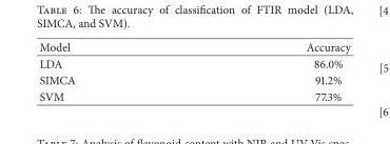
<table><thead><tr><td>Model</td><td>Accuracy</td></tr></thead><tbody><tr><td>LDA</td><td>86.0%</td></tr><tr><td>SIMCA</td><td>91.2%</td></tr><tr><td>SVM</td><td>77.3%</td></tr></tbody></table>